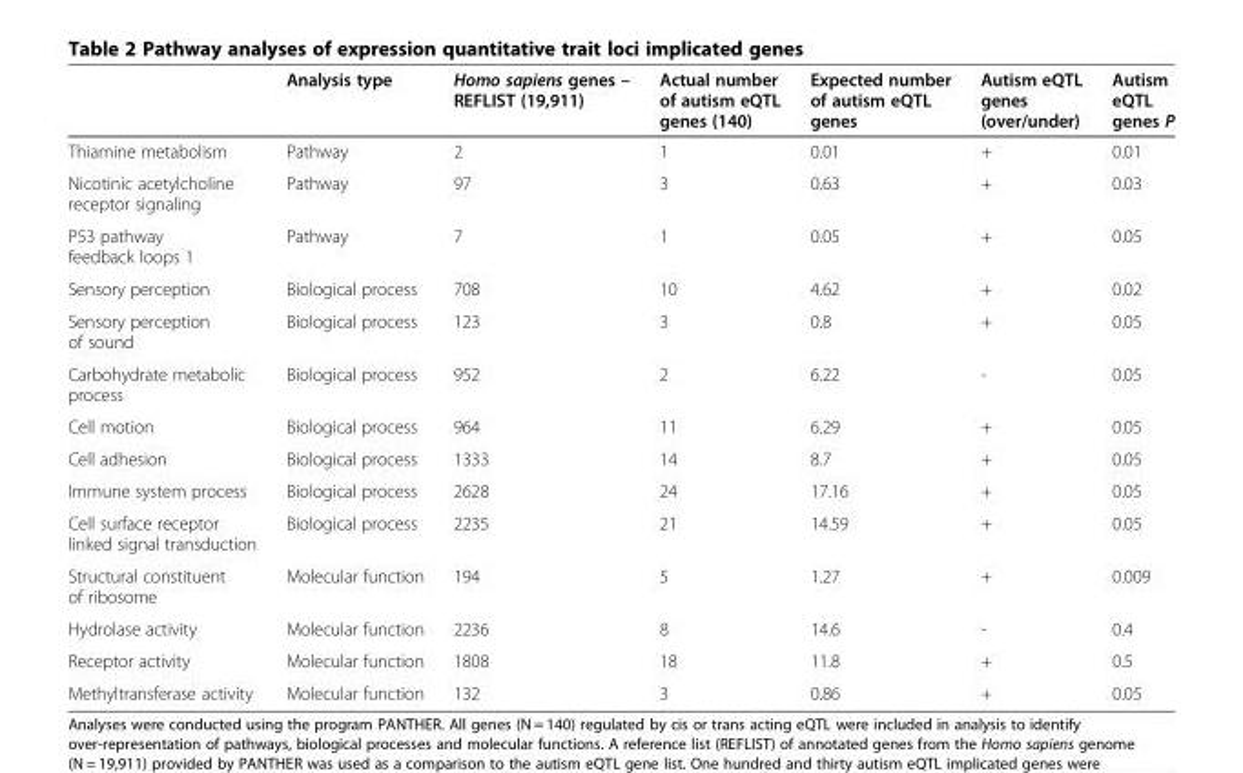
<table><thead><tr><td></td><td>Analysis type</td><td>Homo sapiens genes – REFLIST (19,911)</td><td>Actual number of autism eQTL genes (140)</td><td>Expected number of autism eQTL genes</td><td>Autism eQTL genes (over/under)</td><td>Autism eQTL genes P</td></tr></thead><tbody><tr><td>Thiamine metabolism</td><td>Pathway</td><td>2</td><td>1</td><td>0.01</td><td>+</td><td>0.01</td></tr><tr><td>Nicotinic acetylcholine receptor signaling</td><td>Pathway</td><td>97</td><td>3</td><td>0.63</td><td>+</td><td>0.03</td></tr><tr><td>P53 pathway feedback loops 1</td><td>Pathway</td><td>7</td><td>1</td><td>0.05</td><td>+</td><td>0.05</td></tr><tr><td>Sensory perception</td><td>Biological process</td><td>708</td><td>10</td><td>4.62</td><td>+</td><td>0.02</td></tr><tr><td>Sensory perception of sound</td><td>Biological process</td><td>123</td><td>3</td><td>0.8</td><td>+</td><td>0.05</td></tr><tr><td>Carbohydrate metabolic process</td><td>Biological process</td><td>952</td><td>2</td><td>6.22</td><td>-</td><td>0.05</td></tr><tr><td>Cell motion</td><td>Biological process</td><td>964</td><td>11</td><td>6.29</td><td>+</td><td>0.05</td></tr><tr><td>Cell adhesion</td><td>Biological process</td><td>1333</td><td>14</td><td>8.7</td><td>+</td><td>0.05</td></tr><tr><td>Immune system process</td><td>Biological process</td><td>2628</td><td>24</td><td>17.16</td><td>+</td><td>0.05</td></tr><tr><td>Cell surface receptor linked signal transduction</td><td>Biological process</td><td>2235</td><td>21</td><td>14.59</td><td>+</td><td>0.05</td></tr><tr><td>Structural constituent of ribosome</td><td>Molecular function</td><td>194</td><td>5</td><td>1.27</td><td>+</td><td>0.009</td></tr><tr><td>Hydrolase activity</td><td>Molecular function</td><td>2236</td><td>8</td><td>14.6</td><td>-</td><td>0.4</td></tr><tr><td>Receptor activity</td><td>Molecular function</td><td>1808</td><td>18</td><td>11.8</td><td>+</td><td>0.5</td></tr><tr><td>Methyltransferase activity</td><td>Molecular function</td><td>132</td><td>3</td><td>0.86</td><td>+</td><td>0.05</td></tr></tbody></table>